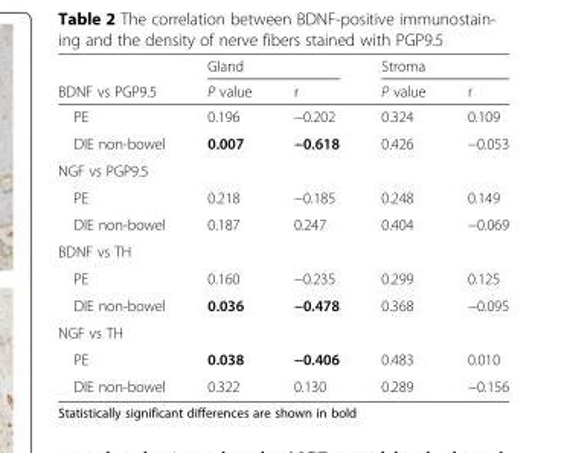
<table><thead><tr><td rowspan="2">BDNF vs PGP9.5</td><td colspan="2">Gland</td><td colspan="2">Stroma</td></tr><tr><td>P value</td><td>r</td><td>P value</td><td>r</td></tr></thead><tbody><tr><td>PE</td><td>0.196</td><td>−0.202</td><td>0.324</td><td>0.109</td></tr><tr><td>DIE non-bowel</td><td>0.007</td><td>−0.618</td><td>0.426</td><td>−0.053</td></tr><tr><td colspan="5">NGF vs PGP9.5</td></tr><tr><td>PE</td><td>0.218</td><td>−0.185</td><td>0.248</td><td>0.149</td></tr><tr><td>DIE non-bowel</td><td>0.187</td><td>0.247</td><td>0.404</td><td>−0.069</td></tr><tr><td colspan="5">BDNF vs TH</td></tr><tr><td>PE</td><td>0.160</td><td>−0.235</td><td>0.299</td><td>0.125</td></tr><tr><td>DIE non-bowel</td><td>0.036</td><td>−0.478</td><td>0.368</td><td>−0.095</td></tr><tr><td colspan="5">NGF vs TH</td></tr><tr><td>PE</td><td>0.038</td><td>−0.406</td><td>0.483</td><td>0.010</td></tr><tr><td>DIE non-bowel</td><td>0.322</td><td>0.130</td><td>0.289</td><td>−0.156</td></tr></tbody></table>